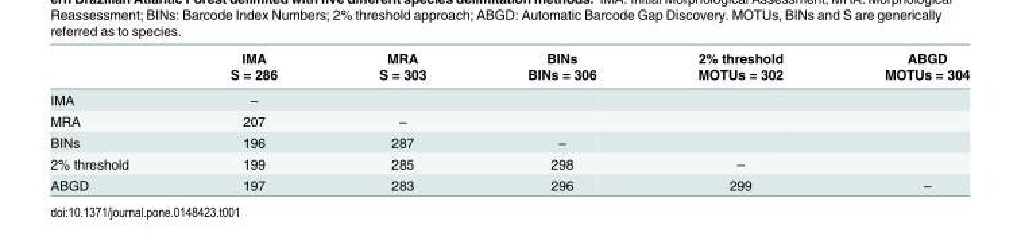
<table><thead><tr><td rowspan="2"></td><td rowspan="2">IMA S = 286</td><td rowspan="2">MRA S = 303</td><td rowspan="2">BINs BINs = 306</td><td rowspan="2">2% threshold MOTUs = 302</td><td rowspan="2">ABGD MOTUs = 304</td></tr><tr></tr></thead><tbody><tr><td>IMA</td><td>–</td><td></td><td></td><td></td><td></td></tr><tr><td>MRA</td><td>207</td><td>–</td><td></td><td></td><td></td></tr><tr><td>BINs</td><td>196</td><td>287</td><td>–</td><td></td><td></td></tr><tr><td>2% threshold</td><td>199</td><td>285</td><td>298</td><td>–</td><td></td></tr><tr><td>ABGD</td><td>197</td><td>283</td><td>296</td><td>299</td><td>–</td></tr></tbody></table>